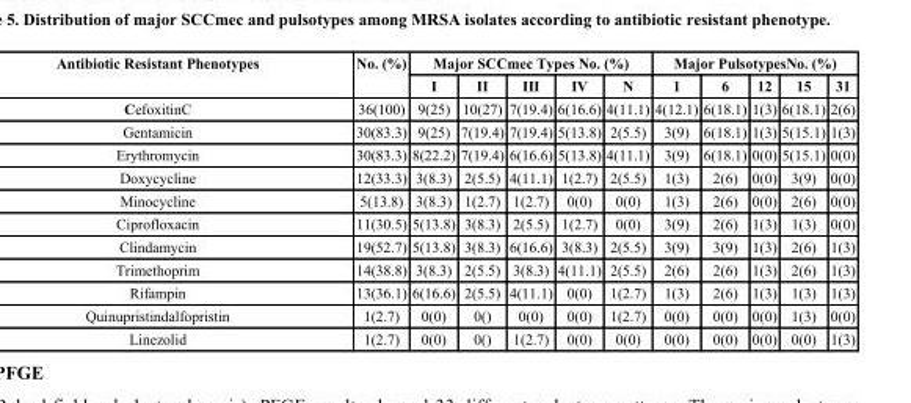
<table><thead><tr><td rowspan="2">Antibiotic Resistant Phenotypes</td><td rowspan="2">No. (%)</td><td colspan="5">Major SCCmec Types No. (%)</td><td colspan="5">Major PulsotypesNo. (%)</td></tr><tr><td>I</td><td>II</td><td>III</td><td>IV</td><td>N</td><td>1</td><td>6</td><td>12</td><td>15</td><td>31</td></tr></thead><tbody><tr><td>CefoxitinC</td><td>36(100)</td><td>9(25)</td><td>10(27)</td><td>7(19.4)</td><td>6(16.6)</td><td>4(11.1)</td><td>4(12.1)</td><td>6(18.1)</td><td>1(3)</td><td>6(18.1)</td><td>2(6)</td></tr><tr><td>Gentamicin</td><td>30(83.3)</td><td>9(25)</td><td>7(19.4)</td><td>7(19.4)</td><td>5(13.8)</td><td>2(5.5)</td><td>3(9)</td><td>6(18.1)</td><td>1(3)</td><td>5(15.1)</td><td>1(3)</td></tr><tr><td>Erythromycin</td><td>30(83.3)</td><td>8(22.2)</td><td>7(19.4)</td><td>6(16.6)</td><td>5(13.8)</td><td>4(11.1)</td><td>3(9)</td><td>6(18.1)</td><td>0(0)</td><td>5(15.1)</td><td>0(0)</td></tr><tr><td>Doxycycline</td><td>12(33.3)</td><td>3(8.3)</td><td>2(5.5)</td><td>4(11.1)</td><td>1(2.7)</td><td>2(5.5)</td><td>1(3)</td><td>2(6)</td><td>0(0)</td><td>3(9)</td><td>0(0)</td></tr><tr><td>Minocycline</td><td>5(13.8)</td><td>3(8.3)</td><td>1(2.7)</td><td>1(2.7)</td><td>0(0)</td><td>0(0)</td><td>1(3)</td><td>2(6)</td><td>0(0)</td><td>2(6)</td><td>0(0)</td></tr><tr><td>Ciprofloxacin</td><td>11(30.5)</td><td>5(13.8)</td><td>3(8.3)</td><td>2(5.5)</td><td>1(2.7)</td><td>0(0)</td><td>3(9)</td><td>2(6)</td><td>1(3)</td><td>1(3)</td><td>0(0)</td></tr><tr><td>Clindamycin</td><td>19(52.7)</td><td>5(13.8)</td><td>3(8.3)</td><td>6(16.6)</td><td>3(8.3)</td><td>2(5.5)</td><td>3(9)</td><td>3(9)</td><td>1(3)</td><td>2(6)</td><td>1(3)</td></tr><tr><td>Trimethoprim</td><td>14(38.8)</td><td>3(8.3)</td><td>2(5.5)</td><td>3(8.3)</td><td>4(11.1)</td><td>2(5.5)</td><td>2(6)</td><td>2(6)</td><td>1(3)</td><td>2(6)</td><td>1(3)</td></tr><tr><td>Rifampin</td><td>13(36.1)</td><td>6(16.6)</td><td>2(5.5)</td><td>4(11.1)</td><td>0(0)</td><td>1(2.7)</td><td>1(3)</td><td>2(6)</td><td>1(3)</td><td>1(3)</td><td>1(3)</td></tr><tr><td>Quinupristindalfopristin</td><td>1(2.7)</td><td>0(0)</td><td>0()</td><td>0(0)</td><td>0(0)</td><td>1(2.7)</td><td>0(0)</td><td>0(0)</td><td>0(0)</td><td>1(3)</td><td>0(0)</td></tr><tr><td>Linezolid</td><td>1(2.7)</td><td>0(0)</td><td>0()</td><td>1(2.7)</td><td>0(0)</td><td>0(0)</td><td>0(0)</td><td>0(0)</td><td>0(0)</td><td>0(0)</td><td>1(3)</td></tr></tbody></table>